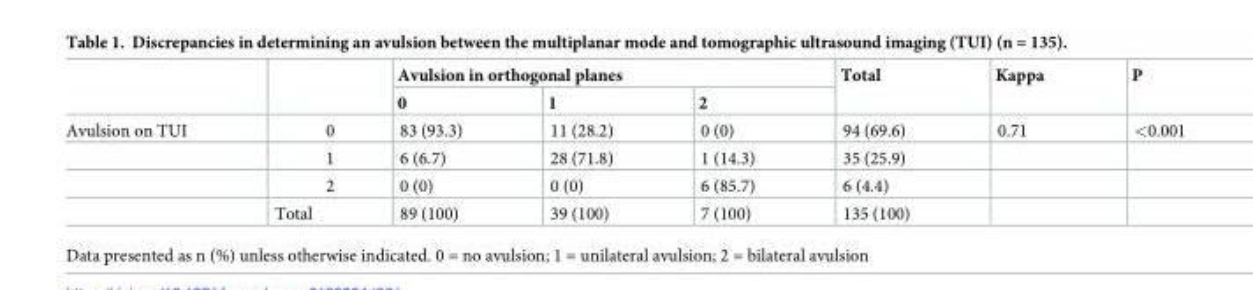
<table><thead><tr><td rowspan="2"></td><td rowspan="2"></td><td colspan="3">Avulsion in orthogonal planes</td><td rowspan="2">Total</td><td rowspan="2">Kappa</td><td rowspan="2">P</td></tr><tr><td>0</td><td>1</td><td>2</td></tr></thead><tbody><tr><td rowspan="4">Avulsion on TUI</td><td>0</td><td>83 (93.3)</td><td>11 (28.2)</td><td>0 (0)</td><td>94 (69.6)</td><td>0.71</td><td>&lt;0.001</td></tr><tr><td>1</td><td>6 (6.7)</td><td>28 (71.8)</td><td>1 (14.3)</td><td>35 (25.9)</td><td></td><td></td></tr><tr><td>2</td><td>0 (0)</td><td>0 (0)</td><td>6 (85.7)</td><td>6 (4.4)</td><td></td><td></td></tr><tr><td>Total</td><td>89 (100)</td><td>39 (100)</td><td>7 (100)</td><td>135 (100)</td><td></td><td></td></tr></tbody></table>